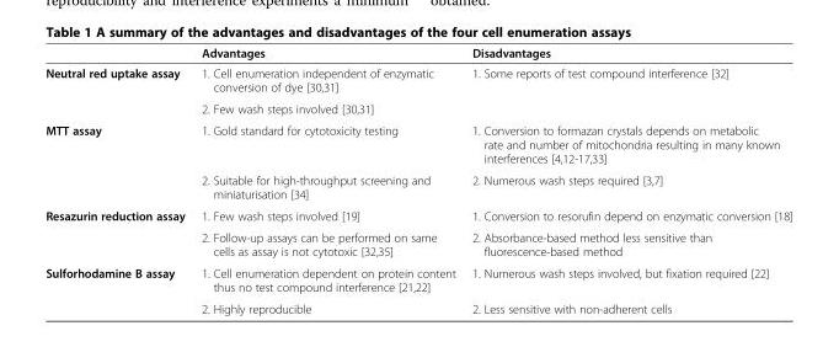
<table><thead><tr><td></td><td>Advantages</td><td>Disadvantages</td></tr></thead><tbody><tr><td rowspan="2">Neutral red uptake assay</td><td>1. Cell enumeration independent of enzymatic conversion of dye [30,31]</td><td rowspan="2">1. Some reports of test compound interference [32]</td></tr><tr><td>2. Few wash steps involved [30,31]</td></tr><tr><td rowspan="2">MTT assay</td><td>1. Gold standard for cytotoxicity testing</td><td>1. Conversion to formazan crystals depends on metabolic rate and number of mitochondria resulting in many known interferences [4,12-17,33]</td></tr><tr><td>2. Suitable for high-throughput screening and miniaturisation [34]</td><td>2. Numerous wash steps required [3,7]</td></tr><tr><td rowspan="2">Resazurin reduction assay</td><td>1. Few wash steps involved [19]</td><td>1. Conversion to resorufin depend on enzymatic conversion [18]</td></tr><tr><td>2. Follow-up assays can be performed on same cells as assay is not cytotoxic [32,35]</td><td>2. Absorbance-based method less sensitive than fluorescence-based method</td></tr><tr><td rowspan="2">Sulforhodamine B assay</td><td>1. Cell enumeration dependent on protein content thus no test compound interference [21,22]</td><td>1. Numerous wash steps involved, but fixation required [22]</td></tr><tr><td>2. Highly reproducible</td><td>2. Less sensitive with non-adherent cells</td></tr></tbody></table>